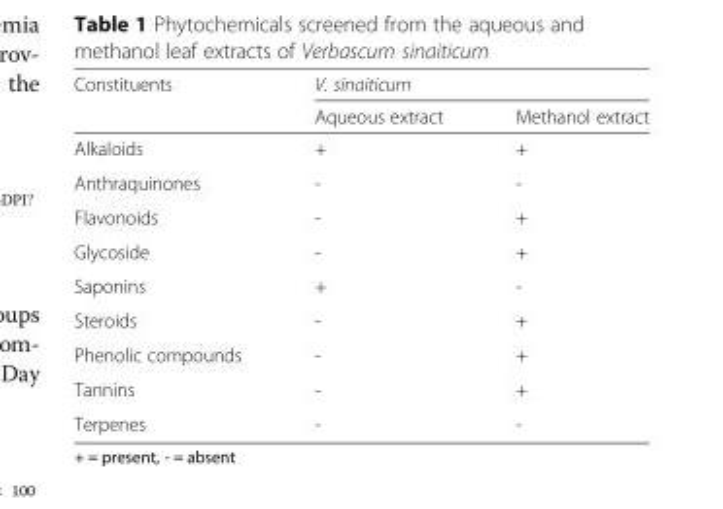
<table><thead><tr><td rowspan="2">Constituents</td><td colspan="2">V. sinaiticum</td></tr><tr><td>Aqueous extract</td><td>Methanol extract</td></tr></thead><tbody><tr><td>Alkaloids</td><td>+</td><td>+</td></tr><tr><td>Anthraquinones</td><td>-</td><td>-</td></tr><tr><td>Flavonoids</td><td>-</td><td>+</td></tr><tr><td>Glycoside</td><td>-</td><td>+</td></tr><tr><td>Saponins</td><td>+</td><td>-</td></tr><tr><td>Steroids</td><td>-</td><td>+</td></tr><tr><td>Phenolic compounds</td><td>-</td><td>+</td></tr><tr><td>Tannins</td><td>-</td><td>+</td></tr><tr><td>Terpenes</td><td>-</td><td>-</td></tr></tbody></table>